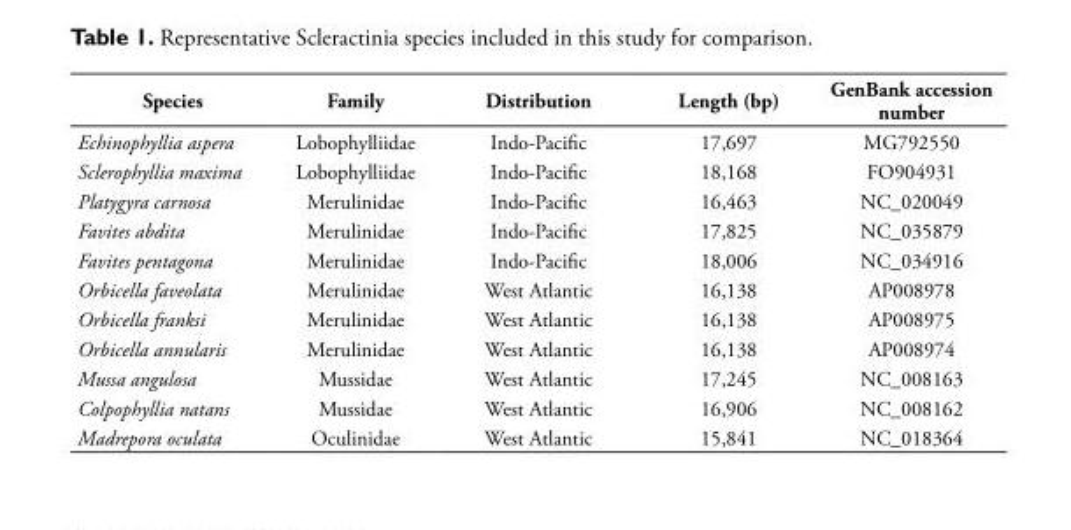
<table><thead><tr><td>Species</td><td>Family</td><td>Distribution</td><td>Length (bp)</td><td>GenBank accession number</td></tr></thead><tbody><tr><td>Echinophyllia aspera</td><td>Lobophylliidae</td><td>Indo-Pacific</td><td>17,697</td><td>MG792550</td></tr><tr><td>Sclerophyllia maxima</td><td>Lobophylliidae</td><td>Indo-Pacific</td><td>18,168</td><td>FO904931</td></tr><tr><td>Platygyra carnosa</td><td>Merulinidae</td><td>Indo-Pacific</td><td>16,463</td><td>NC_020049</td></tr><tr><td>Favites abdita</td><td>Merulinidae</td><td>Indo-Pacific</td><td>17,825</td><td>NC_035879</td></tr><tr><td>Favites pentagona</td><td>Merulinidae</td><td>Indo-Pacific</td><td>18,006</td><td>NC_034916</td></tr><tr><td>Orbicella faveolata</td><td>Merulinidae</td><td>West Atlantic</td><td>16,138</td><td>AP008978</td></tr><tr><td>Orbicella franksi</td><td>Merulinidae</td><td>West Atlantic</td><td>16,138</td><td>AP008975</td></tr><tr><td>Orbicella annularis</td><td>Merulinidae</td><td>West Atlantic</td><td>16,138</td><td>AP008974</td></tr><tr><td>Mussa angulosa</td><td>Mussidae</td><td>West Atlantic</td><td>17,245</td><td>NC_008163</td></tr><tr><td>Colpophyllia natans</td><td>Mussidae</td><td>West Atlantic</td><td>16,906</td><td>NC_008162</td></tr><tr><td>Madrepora oculata</td><td>Oculinidae</td><td>West Atlantic</td><td>15,841</td><td>NC_018364</td></tr></tbody></table>